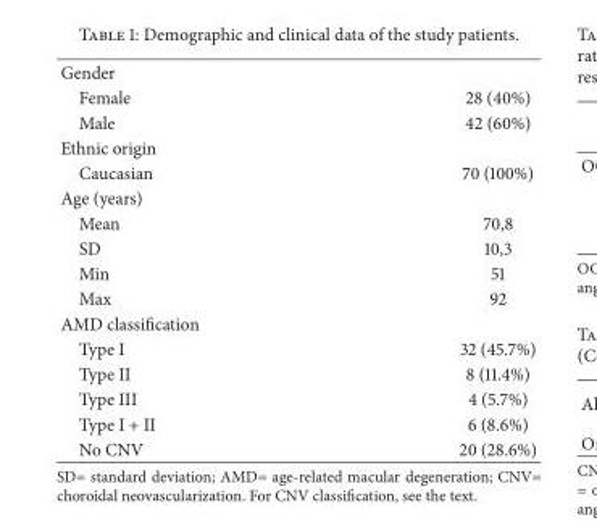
<table><tbody><tr><td colspan="2">Gender</td></tr><tr><td>Female</td><td>28 (40%)</td></tr><tr><td>Male</td><td>42 (60%)</td></tr><tr><td colspan="2">Ethnic origin</td></tr><tr><td>Caucasian</td><td>70 (100%)</td></tr><tr><td colspan="2">Age (years)</td></tr><tr><td>Mean</td><td>70,8</td></tr><tr><td>SD</td><td>10,3</td></tr><tr><td>Min</td><td>51</td></tr><tr><td>Max</td><td>92</td></tr><tr><td colspan="2">AMD classification</td></tr><tr><td>Type I</td><td>32 (45.7%)</td></tr><tr><td>Type II</td><td>8 (11.4%)</td></tr><tr><td>Type III</td><td>4 (5.7%)</td></tr><tr><td>Type I + II</td><td>6 (8.6%)</td></tr><tr><td>No CNV</td><td>20 (28.6%)</td></tr></tbody></table>